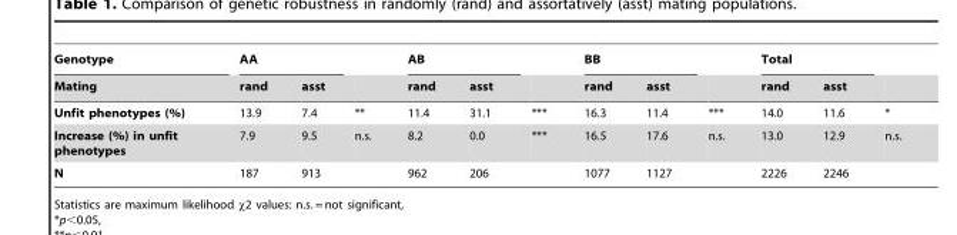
<table><thead><tr><td rowspan="2">Genotype Mating</td><td colspan="2">AA</td><td rowspan="2"></td><td colspan="2">AB</td><td rowspan="2"></td><td colspan="2">BB</td><td rowspan="2"></td><td colspan="2">Total</td><td rowspan="2"></td></tr><tr><td>rand</td><td>asst</td><td>rand</td><td>asst</td><td>rand</td><td>asst</td><td>rand</td><td>asst</td></tr></thead><tbody><tr><td>Unfit phenotypes (%)</td><td>13.9</td><td>7.4</td><td>**</td><td>11.4</td><td>31.1</td><td>***</td><td>16.3</td><td>11.4</td><td>***</td><td>14.0</td><td>11.6</td><td>*</td></tr><tr><td>Increase (%) in unfit phenotypes</td><td>7.9</td><td>9.5</td><td>n.s.</td><td>8.2</td><td>0.0</td><td>***</td><td>16.5</td><td>17.6</td><td>n.s.</td><td>13.0</td><td>12.9</td><td>n.s.</td></tr><tr><td>N</td><td>187</td><td>913</td><td></td><td>962</td><td>206</td><td></td><td>1077</td><td>1127</td><td></td><td>2226</td><td>2246</td><td></td></tr></tbody></table>